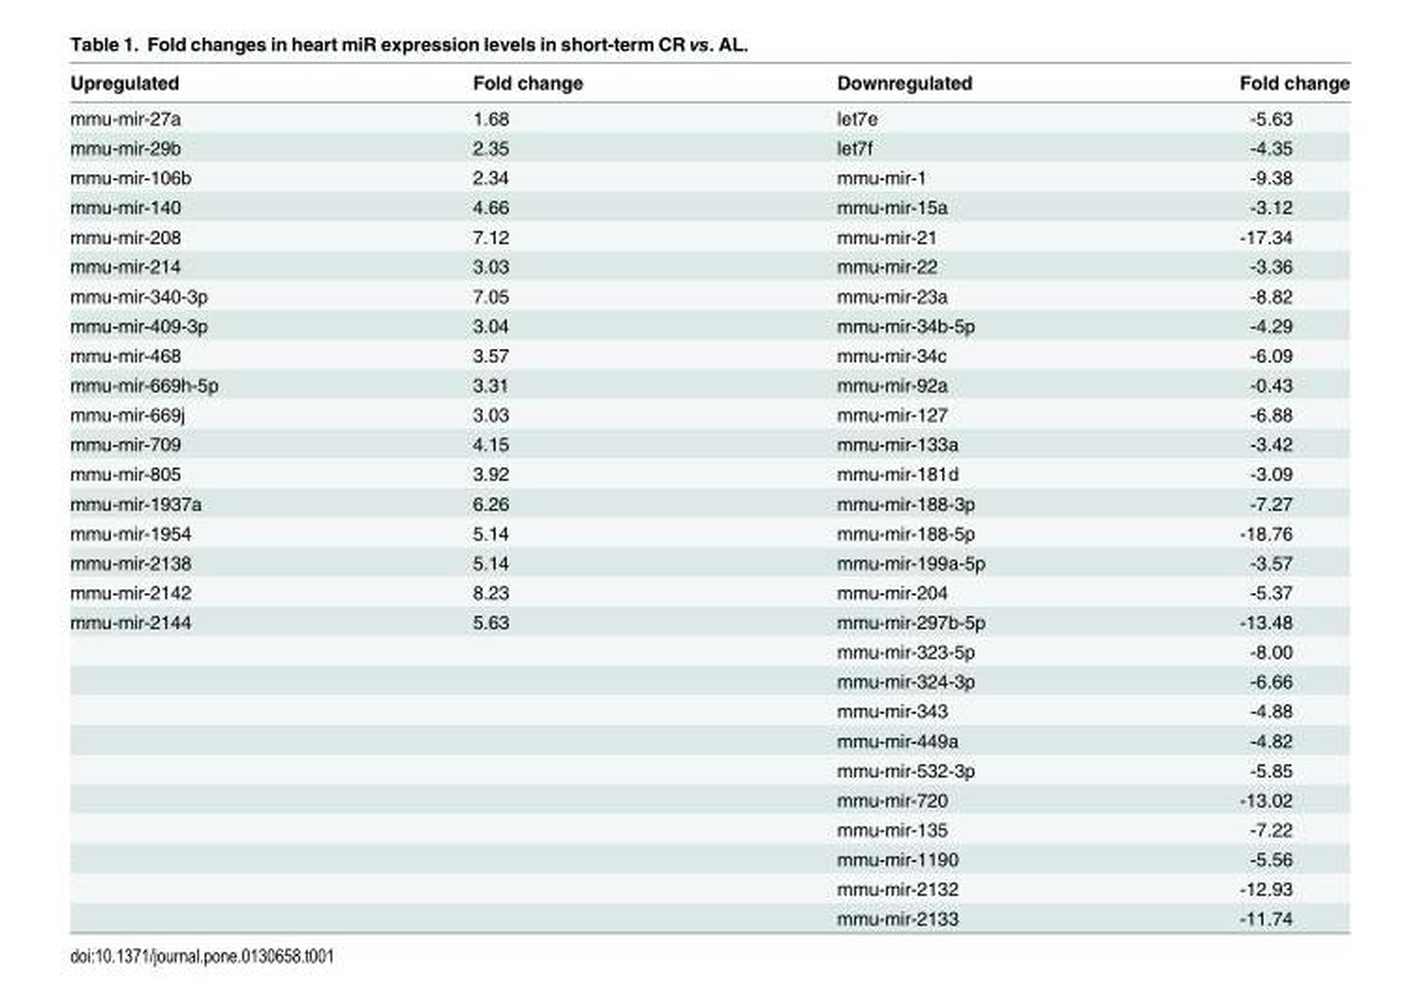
<table><thead><tr><td>Upregulated</td><td>Fold change</td><td>Downregulated</td><td>Fold change</td></tr></thead><tbody><tr><td>mmu-mir-27a</td><td>1.68</td><td>let7e</td><td>-5.63</td></tr><tr><td>mmu-mir-29b</td><td>2.35</td><td>let7f</td><td>-4.35</td></tr><tr><td>mmu-mir-106b</td><td>2.34</td><td>mmu-mir-1</td><td>-9.38</td></tr><tr><td>mmu-mir-140</td><td>4.66</td><td>mmu-mir-15a</td><td>-3.12</td></tr><tr><td>mmu-mir-208</td><td>7.12</td><td>mmu-mir-21</td><td>-17.34</td></tr><tr><td>mmu-mir-214</td><td>3.03</td><td>mmu-mir-22</td><td>-3.36</td></tr><tr><td>mmu-mir-340-3p</td><td>7.05</td><td>mmu-mir-23a</td><td>-8.82</td></tr><tr><td>mmu-mir-409-3p</td><td>3.04</td><td>mmu-mir-34b-5p</td><td>-4.29</td></tr><tr><td>mmu-mir-468</td><td>3.57</td><td>mmu-mir-34c</td><td>-6.09</td></tr><tr><td>mmu-mir-669h-5p</td><td>3.31</td><td>mmu-mir-92a</td><td>-0.43</td></tr><tr><td>mmu-mir-669j</td><td>3.03</td><td>mmu-mir-127</td><td>-6.88</td></tr><tr><td>mmu-mir-709</td><td>4.15</td><td>mmu-mir-133a</td><td>-3.42</td></tr><tr><td>mmu-mir-805</td><td>3.92</td><td>mmu-mir-181d</td><td>-3.09</td></tr><tr><td>mmu-mir-1937a</td><td>6.26</td><td>mmu-mir-188-3p</td><td>-7.27</td></tr><tr><td>mmu-mir-1954</td><td>5.14</td><td>mmu-mir-188-5p</td><td>-18.76</td></tr><tr><td>mmu-mir-2138</td><td>5.14</td><td>mmu-mir-199a-5p</td><td>-3.57</td></tr><tr><td>mmu-mir-2142</td><td>8.23</td><td>mmu-mir-204</td><td>-5.37</td></tr><tr><td rowspan="11">mmu-mir-2144</td><td>5.63</td><td>mmu-mir-297b-5p</td><td>-13.48</td></tr><tr><td></td><td>mmu-mir-323-5p</td><td>-8.00</td></tr><tr><td></td><td>mmu-mir-324-3p</td><td>-6.66</td></tr><tr><td></td><td>mmu-mir-343</td><td>-4.88</td></tr><tr><td></td><td>mmu-mir-449a</td><td>-4.82</td></tr><tr><td></td><td>mmu-mir-532-3p</td><td>-5.85</td></tr><tr><td></td><td>mmu-mir-720</td><td>-13.02</td></tr><tr><td></td><td>mmu-mir-135</td><td>-7.22</td></tr><tr><td></td><td>mmu-mir-1190</td><td>-5.56</td></tr><tr><td></td><td>mmu-mir-2132</td><td>-12.93</td></tr><tr><td></td><td>mmu-mir-2133</td><td>-11.74</td></tr></tbody></table>